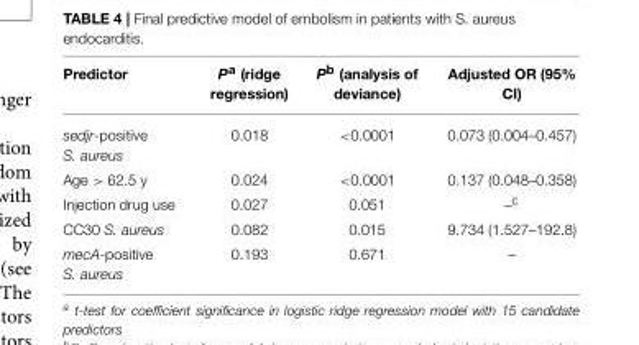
<table><thead><tr><td>Predictor</td><td>P<sup>a</sup> (ridge regression)</td><td>P<sup>b</sup> (analysis of deviance)</td><td>Adjusted OR (95% CI)</td></tr></thead><tbody><tr><td>sedjr-positive S. aureus</td><td>0.018</td><td>&lt;0.0001</td><td>0.073 (0.004–0.457)</td></tr><tr><td>Age &gt; 62.5 y</td><td>0.024</td><td>&lt;0.0001</td><td>0.137 (0.048–0.358)</td></tr><tr><td>Injection drug use</td><td>0.027</td><td>0.051</td><td>–<sup>c</sup></td></tr><tr><td>CC30 S. aureus</td><td>0.082</td><td>0.015</td><td>9.734 (1.527–192.8)</td></tr><tr><td>mecA-positive S. aureus</td><td>0.193</td><td>0.671</td><td>–</td></tr></tbody></table>